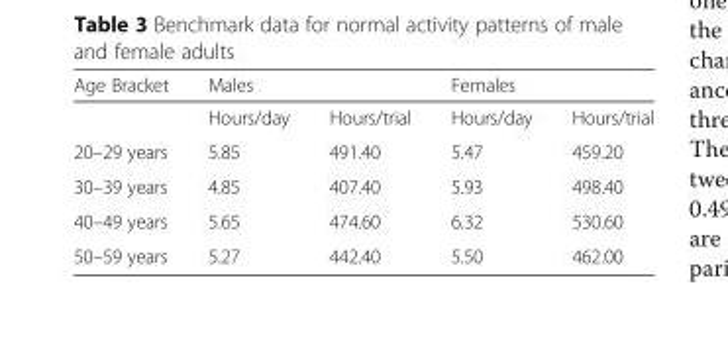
<table><thead><tr><td rowspan="2">Age Bracket</td><td colspan="2">Males</td><td colspan="2">Females</td></tr><tr><td>Hours/day</td><td>Hours/trial</td><td>Hours/day</td><td>Hours/trial</td></tr></thead><tbody><tr><td>20–29 years</td><td>5.85</td><td>491.40</td><td>5.47</td><td>459.20</td></tr><tr><td>30–39 years</td><td>4.85</td><td>407.40</td><td>5.93</td><td>498.40</td></tr><tr><td>40–49 years</td><td>5.65</td><td>474.60</td><td>6.32</td><td>530.60</td></tr><tr><td>50–59 years</td><td>5.27</td><td>442.40</td><td>5.50</td><td>462.00</td></tr></tbody></table>